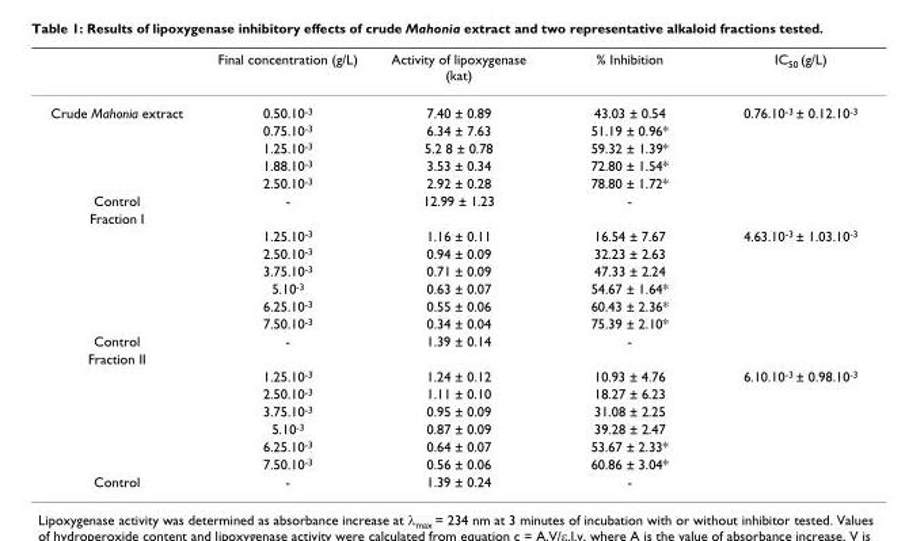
<table><thead><tr><td></td><td>Final concentration (g/L)</td><td>Activity of lipoxygenase (kat)</td><td>% Inhibition</td><td>IC<sub>50</sub> (g/L)</td></tr></thead><tbody><tr><td rowspan="5">Crude Mahonia extract</td><td>0.50.10<sup>-3</sup></td><td>7.40 ± 0.89</td><td>43.03 ± 0.54</td><td>0.76.10<sup>-3</sup> ± 0.12.10<sup>-3</sup></td></tr><tr><td>0.75.10<sup>-3</sup></td><td>6.34 ± 7.63</td><td>51.19 ± 0.96*</td><td></td></tr><tr><td>1.25.10<sup>-3</sup></td><td>5.2 8 ± 0.78</td><td>59.32 ± 1.39*</td><td></td></tr><tr><td>1.88.10<sup>-3</sup></td><td>3.53 ± 0.34</td><td>72.80 ± 1.54*</td><td></td></tr><tr><td>2.50.10<sup>-3</sup></td><td>2.92 ± 0.28</td><td>78.80 ± 1.72*</td><td></td></tr><tr><td>Control</td><td>-</td><td>12.99 ± 1.23</td><td>-</td><td></td></tr><tr><td colspan="5">Fraction I</td></tr><tr><td></td><td>1.25.10<sup>-3</sup></td><td>1.16 ± 0.11</td><td>16.54 ± 7.67</td><td>4.63.10<sup>-3</sup> ± 1.03.10<sup>-3</sup></td></tr><tr><td></td><td>2.50.10<sup>-3</sup></td><td>0.94 ± 0.09</td><td>32.23 ± 2.63</td><td></td></tr><tr><td></td><td>3.75.10<sup>-3</sup></td><td>0.71 ± 0.09</td><td>47.33 ± 2.24</td><td></td></tr><tr><td></td><td>5.10<sup>-3</sup></td><td>0.63 ± 0.07</td><td>54.67 ± 1.64*</td><td></td></tr><tr><td></td><td>6.25.10<sup>-3</sup></td><td>0.55 ± 0.06</td><td>60.43 ± 2.36*</td><td></td></tr><tr><td></td><td>7.50.10<sup>-3</sup></td><td>0.34 ± 0.04</td><td>75.39 ± 2.10*</td><td></td></tr><tr><td>Control</td><td>-</td><td>1.39 ± 0.14</td><td>-</td><td></td></tr><tr><td colspan="5">Fraction II</td></tr><tr><td></td><td>1.25.10<sup>-3</sup></td><td>1.24 ± 0.12</td><td>10.93 ± 4.76</td><td>6.10.10<sup>-3</sup> ± 0.98.10<sup>-3</sup></td></tr><tr><td></td><td>2.50.10<sup>-3</sup></td><td>1.11 ± 0.10</td><td>18.27 ± 6.23</td><td></td></tr><tr><td></td><td>3.75.10<sup>-3</sup></td><td>0.95 ± 0.09</td><td>31.08 ± 2.25</td><td></td></tr><tr><td></td><td>5.10<sup>-3</sup></td><td>0.87 ± 0.09</td><td>39.28 ± 2.47</td><td></td></tr><tr><td></td><td>6.25.10<sup>-3</sup></td><td>0.64 ± 0.07</td><td>53.67 ± 2.33*</td><td></td></tr><tr><td></td><td>7.50.10<sup>-3</sup></td><td>0.56 ± 0.06</td><td>60.86 ± 3.04*</td><td></td></tr><tr><td>Control</td><td>-</td><td>1.39 ± 0.24</td><td>-</td><td></td></tr></tbody></table>